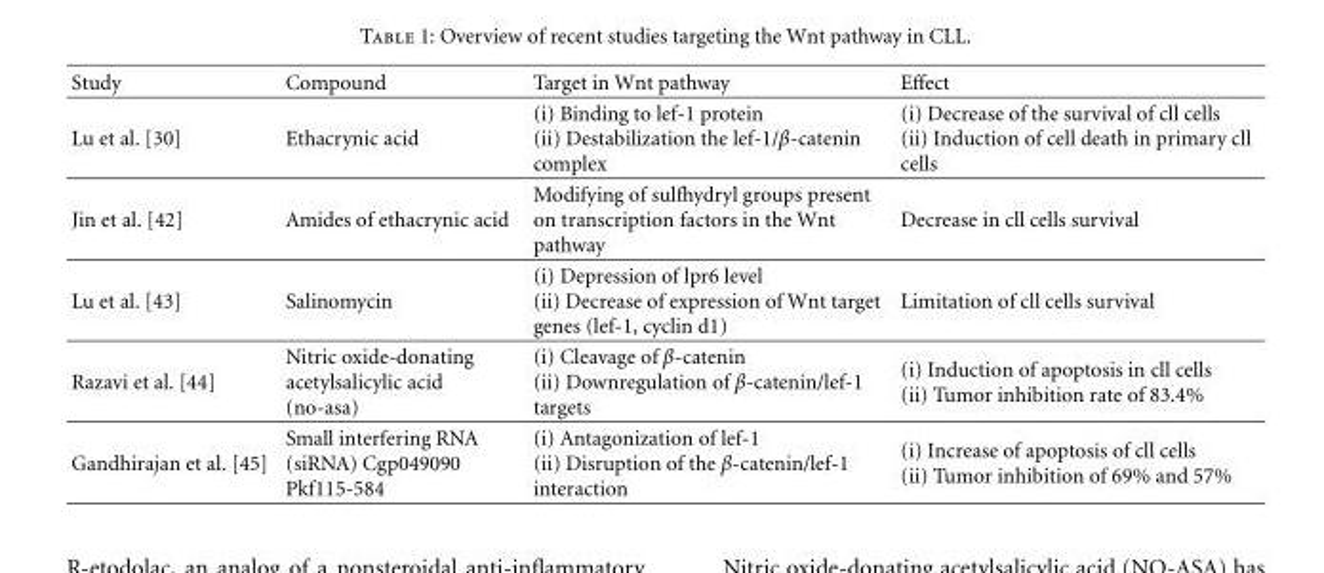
<table><thead><tr><td>Study</td><td>Compound</td><td>Target in Wnt pathway</td><td>Effect</td></tr></thead><tbody><tr><td>Lu et al. [30]</td><td>Ethacrynic acid</td><td>(i) Binding to lef-1 protein (ii) Destabilization the lef-1/β-catenin complex</td><td>(i) Decrease of the survival of cll cells (ii) Induction of cell death in primary cll cells</td></tr><tr><td>Jin et al. [42]</td><td>Amides of ethacrynic acid</td><td>Modifying of sulfhydryl groups present on transcription factors in the Wnt pathway</td><td>Decrease in cll cells survival</td></tr><tr><td>Lu et al. [43]</td><td>Salinomycin</td><td>(i) Depression of lpr6 level (ii) Decrease of expression of Wnt target genes (lef-1, cyclin d1)</td><td>Limitation of cll cells survival</td></tr><tr><td>Razavi et al. [44]</td><td>Nitric oxide-donating acetylsalicylic acid (no-asa)</td><td>(i) Cleavage of β-catenin (ii) Downregulation of β-catenin/lef-1 targets</td><td>(i) Induction of apoptosis in cll cells (ii) Tumor inhibition rate of 83.4%</td></tr><tr><td>Gandhirajan et al. [45]</td><td>Small interfering RNA (siRNA) Cgp049090 Pkf115-584</td><td>(i) Antagonization of lef-1 (ii) Disruption of the β-catenin/lef-1 interaction</td><td>(i) Increase of apoptosis of cll cells (ii) Tumor inhibition of 69% and 57%</td></tr></tbody></table>